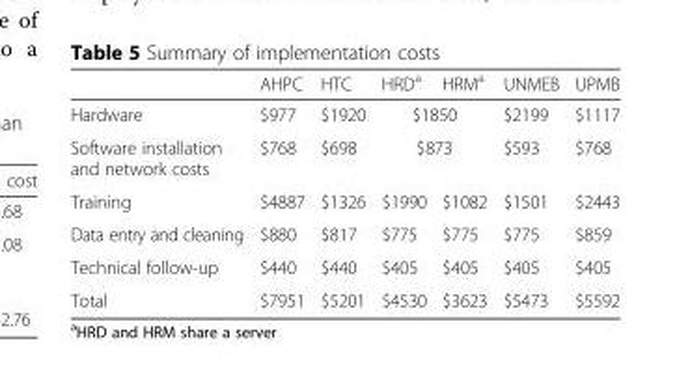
<table><thead><tr><td></td><td>AHPC</td><td>HTC</td><td>HRD<sup>a</sup></td><td>HRM<sup>a</sup></td><td>UNMEB</td><td>UPMB</td></tr></thead><tbody><tr><td>Hardware</td><td>$977</td><td>$1920</td><td colspan="2">$1850</td><td>$2199</td><td>$1117</td></tr><tr><td>Software installation and network costs</td><td>$768</td><td>$698</td><td colspan="2">$873</td><td>$593</td><td>$768</td></tr><tr><td>Training</td><td>$4887</td><td>$1326</td><td>$1990</td><td>$1082</td><td>$1501</td><td>$2443</td></tr><tr><td>Data entry and cleaning</td><td>$880</td><td>$817</td><td>$775</td><td>$775</td><td>$775</td><td>$859</td></tr><tr><td>Technical follow-up</td><td>$440</td><td>$440</td><td>$405</td><td>$405</td><td>$405</td><td>$405</td></tr><tr><td>Total</td><td>$7951</td><td>$5201</td><td>$4530</td><td>$3623</td><td>$5473</td><td>$5592</td></tr></tbody></table>